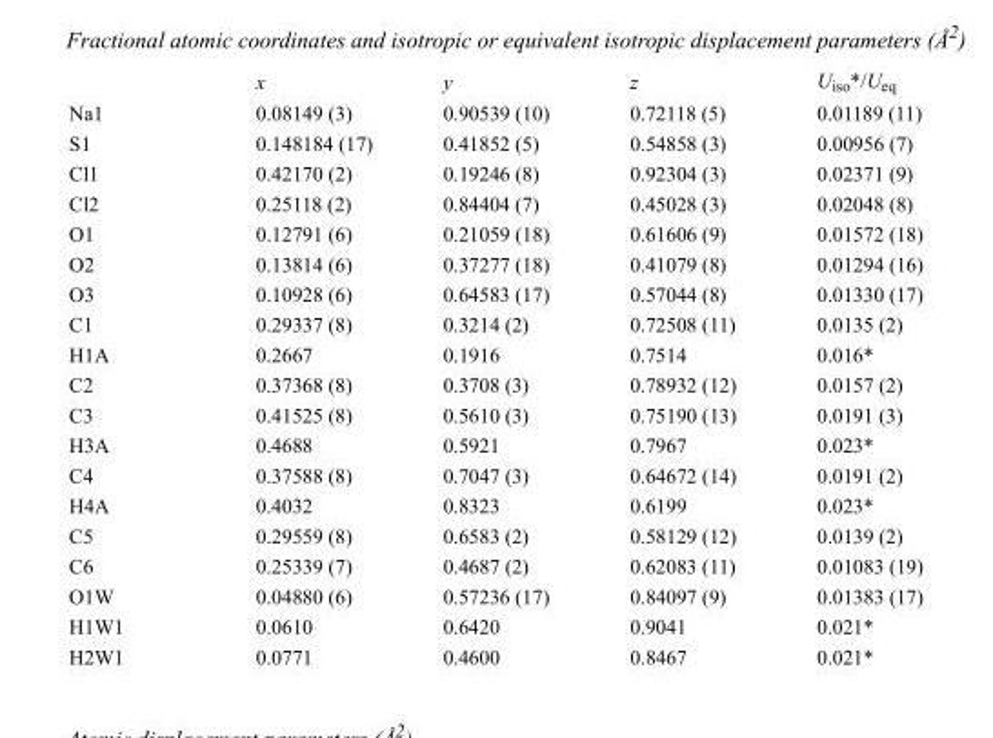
<table><thead><tr><td></td><td>x</td><td>y</td><td>z</td><td>U<sub>iso</sub>*/U<sub>eq</sub></td></tr></thead><tbody><tr><td>Na1</td><td>0.08149 (3)</td><td>0.90539 (10)</td><td>0.72118 (5)</td><td>0.01189 (11)</td></tr><tr><td>S1</td><td>0.148184 (17)</td><td>0.41852 (5)</td><td>0.54858 (3)</td><td>0.00956 (7)</td></tr><tr><td>Cl1</td><td>0.42170 (2)</td><td>0.19246 (8)</td><td>0.92304 (3)</td><td>0.02371 (9)</td></tr><tr><td>Cl2</td><td>0.25118 (2)</td><td>0.84404 (7)</td><td>0.45028 (3)</td><td>0.02048 (8)</td></tr><tr><td>O1</td><td>0.12791 (6)</td><td>0.21059 (18)</td><td>0.61606 (9)</td><td>0.01572 (18)</td></tr><tr><td>O2</td><td>0.13814 (6)</td><td>0.37277 (18)</td><td>0.41079 (8)</td><td>0.01294 (16)</td></tr><tr><td>O3</td><td>0.10928 (6)</td><td>0.64583 (17)</td><td>0.57044 (8)</td><td>0.01330 (17)</td></tr><tr><td>C1</td><td>0.29337 (8)</td><td>0.3214 (2)</td><td>0.72508 (11)</td><td>0.0135 (2)</td></tr><tr><td>H1A</td><td>0.2667</td><td>0.1916</td><td>0.7514</td><td>0.016*</td></tr><tr><td>C2</td><td>0.37368 (8)</td><td>0.3708 (3)</td><td>0.78932 (12)</td><td>0.0157 (2)</td></tr><tr><td>C3</td><td>0.41525 (8)</td><td>0.5610 (3)</td><td>0.75190 (13)</td><td>0.0191 (3)</td></tr><tr><td>H3A</td><td>0.4688</td><td>0.5921</td><td>0.7967</td><td>0.023*</td></tr><tr><td>C4</td><td>0.37588 (8)</td><td>0.7047 (3)</td><td>0.64672 (14)</td><td>0.0191 (2)</td></tr><tr><td>H4A</td><td>0.4032</td><td>0.8323</td><td>0.6199</td><td>0.023*</td></tr><tr><td>C5</td><td>0.29559 (8)</td><td>0.6583 (2)</td><td>0.58129 (12)</td><td>0.0139 (2)</td></tr><tr><td>C6</td><td>0.25339 (7)</td><td>0.4687 (2)</td><td>0.62083 (11)</td><td>0.01083 (19)</td></tr><tr><td>O1W</td><td>0.04880 (6)</td><td>0.57236 (17)</td><td>0.84097 (9)</td><td>0.01383 (17)</td></tr><tr><td>H1W1</td><td>0.0610</td><td>0.6420</td><td>0.9041</td><td>0.021*</td></tr><tr><td>H2W1</td><td>0.0771</td><td>0.4600</td><td>0.8467</td><td>0.021*</td></tr></tbody></table>